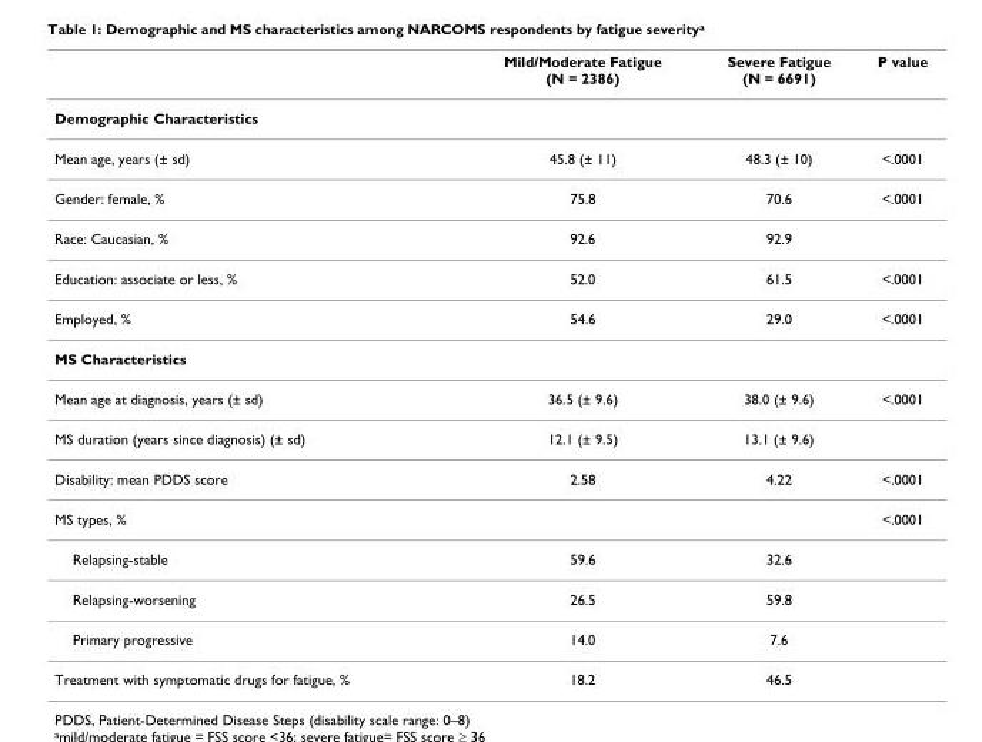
<table><thead><tr><td></td><td>Mild/Moderate Fatigue (N = 2386)</td><td>Severe Fatigue (N = 6691)</td><td>P value</td></tr></thead><tbody><tr><td colspan="4">Demographic Characteristics</td></tr><tr><td>Mean age, years (± sd)</td><td>45.8 (± 11)</td><td>48.3 (± 10)</td><td>&lt;.0001</td></tr><tr><td>Gender: female, %</td><td>75.8</td><td>70.6</td><td>&lt;.0001</td></tr><tr><td>Race: Caucasian, %</td><td>92.6</td><td>92.9</td><td></td></tr><tr><td>Education: associate or less, %</td><td>52.0</td><td>61.5</td><td>&lt;.0001</td></tr><tr><td>Employed, %</td><td>54.6</td><td>29.0</td><td>&lt;.0001</td></tr><tr><td colspan="4">MS Characteristics</td></tr><tr><td>Mean age at diagnosis, years (± sd)</td><td>36.5 (± 9.6)</td><td>38.0 (± 9.6)</td><td>&lt;.0001</td></tr><tr><td>MS duration (years since diagnosis) (± sd)</td><td>12.1 (± 9.5)</td><td>13.1 (± 9.6)</td><td></td></tr><tr><td>Disability: mean PDDS score</td><td>2.58</td><td>4.22</td><td>&lt;.0001</td></tr><tr><td>MS types, %</td><td></td><td></td><td>&lt;.0001</td></tr><tr><td>Relapsing-stable</td><td>59.6</td><td>32.6</td><td></td></tr><tr><td>Relapsing-worsening</td><td>26.5</td><td>59.8</td><td></td></tr><tr><td>Primary progressive</td><td>14.0</td><td>7.6</td><td></td></tr><tr><td>Treatment with symptomatic drugs for fatigue, %</td><td>18.2</td><td>46.5</td><td></td></tr></tbody></table>